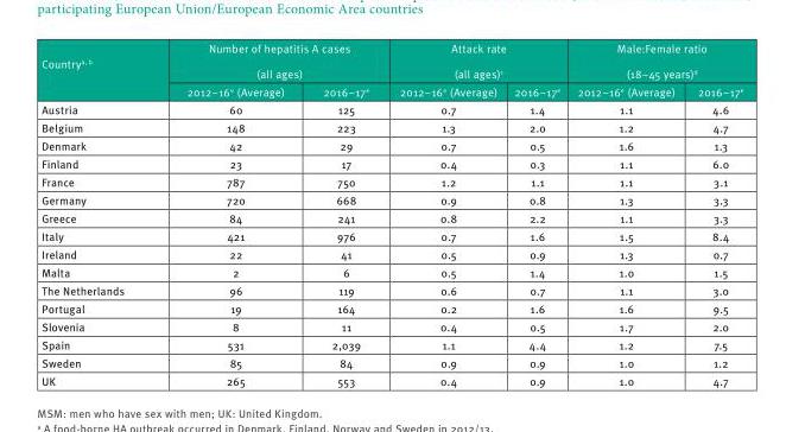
<table><thead><tr><td rowspan="2">Country<sup>a, b</sup></td><td colspan="2">Number of hepatitis A cases (all ages)</td><td colspan="2">Attack rate (all ages)<sup>c</sup></td><td colspan="2">Male:Female ratio (18–45 years)<sup>d</sup></td></tr><tr><td>2012–16<sup>e</sup> (Average)</td><td>2016–17<sup>e</sup></td><td>2012–16<sup>e</sup> (Average)</td><td>2016–17<sup>e</sup></td><td>2012–16<sup>e</sup> (Average)</td><td>2016–17<sup>e</sup></td></tr></thead><tbody><tr><td>Austria</td><td>60</td><td>125</td><td>0.7</td><td>1.4</td><td>1.1</td><td>4.6</td></tr><tr><td>Belgium</td><td>148</td><td>223</td><td>1.3</td><td>2.0</td><td>1.2</td><td>4.7</td></tr><tr><td>Denmark</td><td>42</td><td>29</td><td>0.7</td><td>0.5</td><td>1.6</td><td>1.3</td></tr><tr><td>Finland</td><td>23</td><td>17</td><td>0.4</td><td>0.3</td><td>1.1</td><td>6.0</td></tr><tr><td>France</td><td>787</td><td>750</td><td>1.2</td><td>1.1</td><td>1.1</td><td>3.1</td></tr><tr><td>Germany</td><td>720</td><td>668</td><td>0.9</td><td>0.8</td><td>1.3</td><td>3.3</td></tr><tr><td>Greece</td><td>84</td><td>241</td><td>0.8</td><td>2.2</td><td>1.1</td><td>3.3</td></tr><tr><td>Italy</td><td>421</td><td>976</td><td>0.7</td><td>1.6</td><td>1.5</td><td>8.4</td></tr><tr><td>Ireland</td><td>22</td><td>41</td><td>0.5</td><td>0.9</td><td>1.3</td><td>0.7</td></tr><tr><td>Malta</td><td>2</td><td>6</td><td>0.5</td><td>1.4</td><td>1.0</td><td>1.5</td></tr><tr><td>The Netherlands</td><td>96</td><td>119</td><td>0.6</td><td>0.7</td><td>1.1</td><td>3.0</td></tr><tr><td>Portugal</td><td>19</td><td>164</td><td>0.2</td><td>1.6</td><td>1.6</td><td>9.5</td></tr><tr><td>Slovenia</td><td>8</td><td>11</td><td>0.4</td><td>0.5</td><td>1.7</td><td>2.0</td></tr><tr><td>Spain</td><td>531</td><td>2,039</td><td>1.1</td><td>4.4</td><td>1.2</td><td>7.5</td></tr><tr><td>Sweden</td><td>85</td><td>84</td><td>0.9</td><td>0.9</td><td>1.0</td><td>1.2</td></tr><tr><td>UK</td><td>265</td><td>553</td><td>0.4</td><td>0.9</td><td>1.0</td><td>4.7</td></tr></tbody></table>